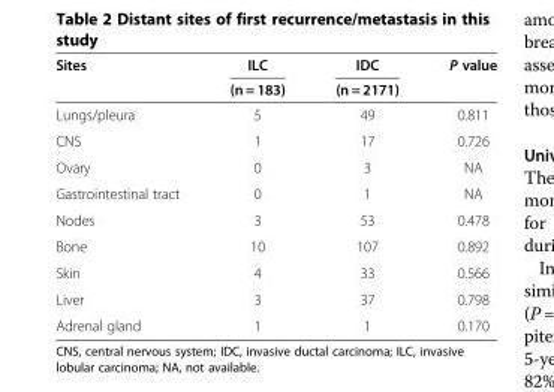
<table><thead><tr><td rowspan="2">Sites</td><td rowspan="2">ILC (n = 183)</td><td rowspan="2">IDC (n = 2171)</td><td rowspan="2">P value</td></tr><tr></tr></thead><tbody><tr><td>Lungs/pleura</td><td>5</td><td>49</td><td>0.811</td></tr><tr><td>CNS</td><td>1</td><td>17</td><td>0.726</td></tr><tr><td>Ovary</td><td>0</td><td>3</td><td>NA</td></tr><tr><td>Gastrointestinal tract</td><td>0</td><td>1</td><td>NA</td></tr><tr><td>Nodes</td><td>3</td><td>53</td><td>0.478</td></tr><tr><td>Bone</td><td>10</td><td>107</td><td>0.892</td></tr><tr><td>Skin</td><td>4</td><td>33</td><td>0.566</td></tr><tr><td>Liver</td><td>3</td><td>37</td><td>0.798</td></tr><tr><td>Adrenal gland</td><td>1</td><td>1</td><td>0.170</td></tr></tbody></table>